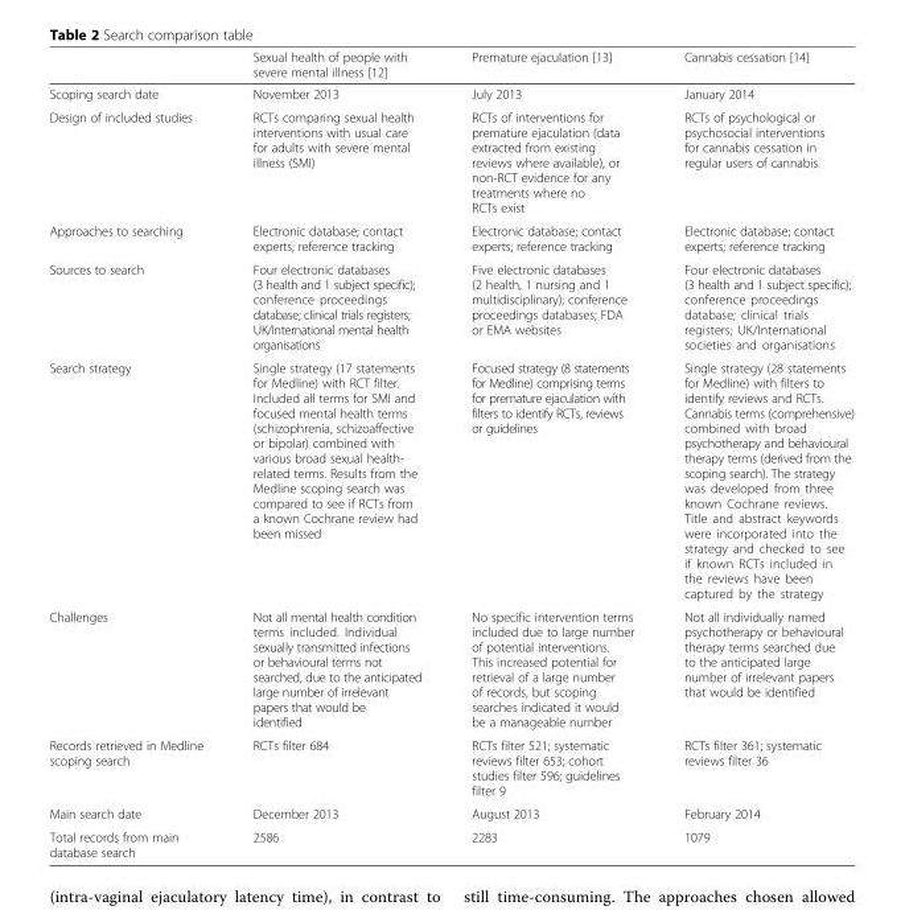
<table><thead><tr><td></td><td>Sexual health of people with severe mental illness [12]</td><td>Premature ejaculation [13]</td><td>Cannabis cessation [14]</td></tr></thead><tbody><tr><td>Scoping search date</td><td>November 2013</td><td>July 2013</td><td>January 2014</td></tr><tr><td>Design of included studies</td><td>RCTs comparing sexual health interventions with usual care for adults with severe mental illness (SMI)</td><td>RCTs of interventions for premature ejaculation (data extracted from existing reviews where available), or non-RCT evidence for any treatments where no RCTs exist</td><td>RCTs of psychological or psychosocial interventions for cannabis cessation in regular users of cannabis</td></tr><tr><td>Approaches to searching</td><td>Electronic database; contact experts; reference tracking</td><td>Electronic database; contact experts; reference tracking</td><td>Electronic database; contact experts; reference tracking</td></tr><tr><td>Sources to search</td><td>Four electronic databases (3 health and 1 subject specific); conference proceedings database; clinical trials registers; UK/International mental health organisations</td><td>Five electronic databases (2 health, 1 nursing and 1 multidisciplinary); conference proceedings databases; FDA or EMA websites</td><td>Four electronic databases (3 health and 1 subject specific); conference proceedings database; clinical trials registers; UK/International societies and organisations</td></tr><tr><td>Search strategy</td><td>Single strategy (17 statements for Medline) with RCT filter. Included all terms for SMI and focused mental health terms (schizophrenia, schizoaffective or bipolar) combined with various broad sexual health- related terms. Results from the Medline scoping search was compared to see if RCTs from a known Cochrane review had been missed</td><td>Focused strategy (8 statements for Medline) comprising terms for premature ejaculation with filters to identify RCTs, reviews or guidelines</td><td>Single strategy (28 statements for Medline) with filters to identify reviews and RCTs. Cannabis terms (comprehensive) combined with broad psychotherapy and behavioural therapy terms (derived from the scoping search). The strategy was developed from three known Cochrane reviews. Title and abstract keywords were incorporated into the strategy and checked to see if known RCTs included in the reviews have been captured by the strategy</td></tr><tr><td>Challenges</td><td>Not all mental health condition terms included. Individual sexually transmitted infections or behavioural terms not searched, due to the anticipated large number of irrelevant papers that would be identified</td><td>No specific intervention terms included due to large number of potential interventions. This increased potential for retrieval of a large number of records, but scoping searches indicated it would be a manageable number</td><td>Not all individually named psychotherapy or behavioural therapy terms searched due to the anticipated large number of irrelevant papers that would be identified</td></tr><tr><td>Records retrieved in Medline scoping search</td><td>RCTs filter 684</td><td>RCTs filter 521; systematic reviews filter 653; cohort studies filter 596; guidelines filter 9</td><td>RCTs filter 361; systematic reviews filter 36</td></tr><tr><td>Main search date</td><td>December 2013</td><td>August 2013</td><td>February 2014</td></tr><tr><td>Total records from main database search</td><td>2586</td><td>2283</td><td>1079</td></tr></tbody></table>